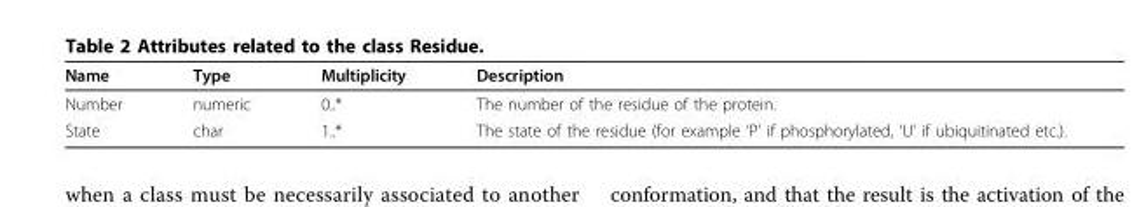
<table><thead><tr><td>Name</td><td>Type</td><td>Multiplicity</td><td>Description</td></tr></thead><tbody><tr><td>Number</td><td>numeric</td><td>0..*</td><td>The number of the residue of the protein.</td></tr><tr><td>State</td><td>char</td><td>1..*</td><td>The state of the residue (for example ‘P’ if phosphorylated, ‘U’ if ubiquitinated etc.).</td></tr></tbody></table>